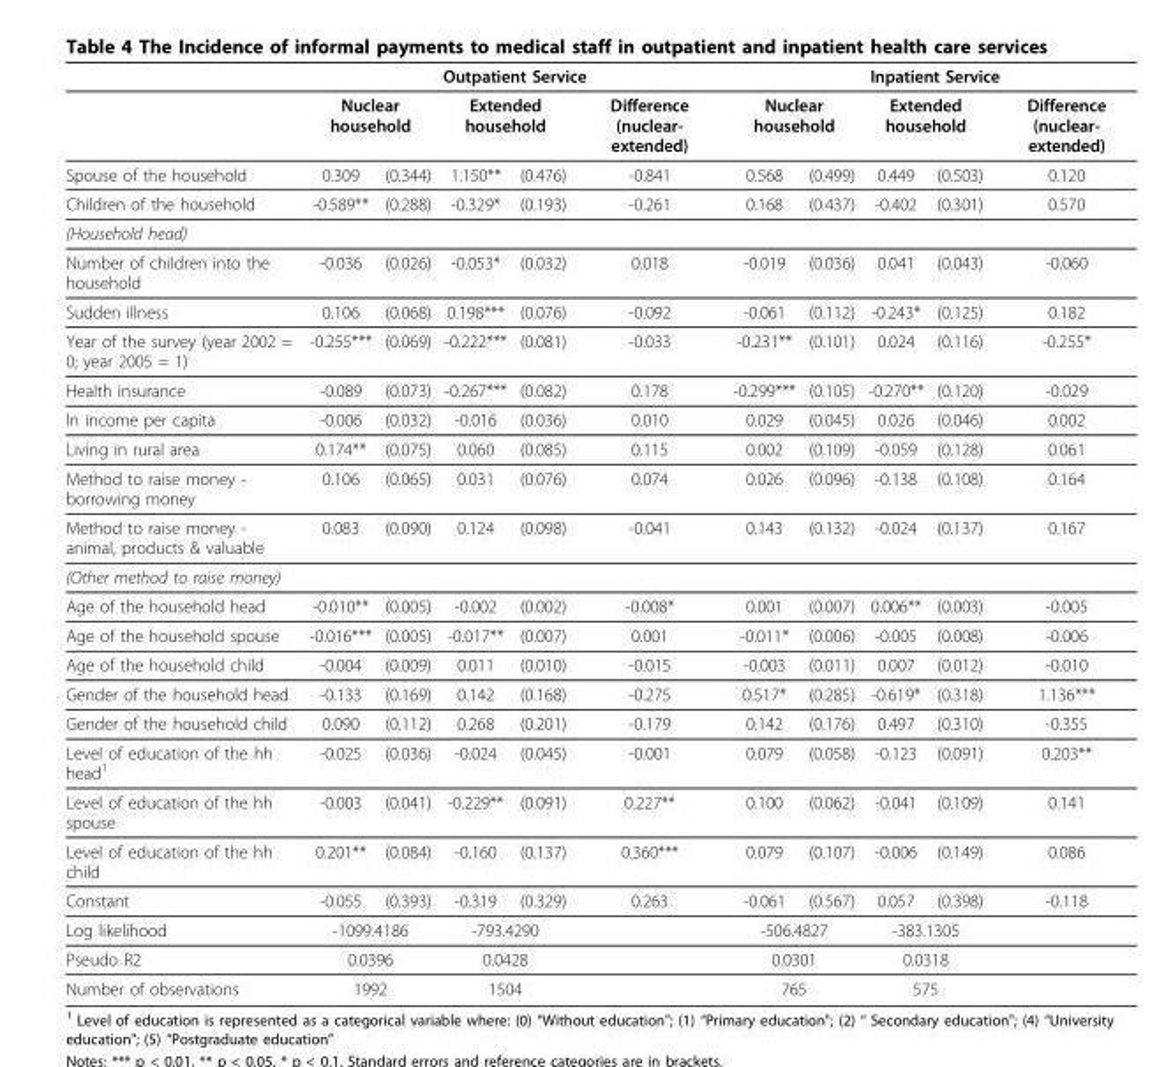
<table><thead><tr><td rowspan="3">Spouse of the household</td><td colspan="5">Outpatient Service</td><td colspan="5">Inpatient Service</td></tr><tr><td colspan="2">Nuclear household</td><td colspan="2">Extended household</td><td rowspan="2">Difference (nuclear- extended) -0.841</td><td colspan="2">Nuclear household</td><td colspan="2">Extended household</td><td rowspan="2">Difference (nuclear- extended) 0.120</td></tr><tr><td>0.309</td><td>(0.344)</td><td>1.150**</td><td>(0.476)</td><td>0.568</td><td>(0.499)</td><td>0.449</td><td>(0.503)</td></tr></thead><tbody><tr><td>Children of the household</td><td>-0.589**</td><td>(0.288)</td><td>-0.329*</td><td>(0.193)</td><td>-0.261</td><td>0.168</td><td>(0.437)</td><td>-0.402</td><td>(0.301)</td><td>0.570</td></tr><tr><td colspan="11">(Household head)</td></tr><tr><td>Number of children into the household</td><td>-0.036</td><td>(0.026)</td><td>-0.053*</td><td>(0.032)</td><td>0.018</td><td>-0.019</td><td>(0.036)</td><td>0.041</td><td>(0.043)</td><td>-0.060</td></tr><tr><td>Sudden illness</td><td>0.106</td><td>(0.068)</td><td>0.198***</td><td>(0.076)</td><td>-0.092</td><td>-0.061</td><td>(0.112)</td><td>-0.243*</td><td>(0.125)</td><td>0.182</td></tr><tr><td>Year of the survey (year 2002 = 0; year 2005 = 1)</td><td>-0.255***</td><td>(0.069)</td><td>-0.222***</td><td>(0.081)</td><td>-0.033</td><td>-0.231**</td><td>(0.101)</td><td>0.024</td><td>(0.116)</td><td>-0.255*</td></tr><tr><td>Health insurance</td><td>-0.089</td><td>(0.073)</td><td>-0.267***</td><td>(0.082)</td><td>0.178</td><td>-0.299***</td><td>(0.105)</td><td>-0.270**</td><td>(0.120)</td><td>-0.029</td></tr><tr><td>ln income per capita</td><td>-0.006</td><td>(0.032)</td><td>-0.016</td><td>(0.036)</td><td>0.010</td><td>0.029</td><td>(0.045)</td><td>0.026</td><td>(0.046)</td><td>0.002</td></tr><tr><td>Living in rural area</td><td>0.174**</td><td>(0.075)</td><td>0.060</td><td>(0.085)</td><td>0.115</td><td>0.002</td><td>(0.109)</td><td>-0.059</td><td>(0.128)</td><td>0.061</td></tr><tr><td>Method to raise money - borrowing money</td><td>0.106</td><td>(0.065)</td><td>0.031</td><td>(0.076)</td><td>0.074</td><td>0.026</td><td>(0.096)</td><td>-0.138</td><td>(0.108)</td><td>0.164</td></tr><tr><td>Method to raise money - animal, products &amp; valuable</td><td>0.083</td><td>(0.090)</td><td>0.124</td><td>(0.098)</td><td>-0.041</td><td>0.143</td><td>(0.132)</td><td>-0.024</td><td>(0.137)</td><td>0.167</td></tr><tr><td colspan="11">(Other method to raise money)</td></tr><tr><td>Age of the household head</td><td>-0.010**</td><td>(0.005)</td><td>-0.002</td><td>(0.002)</td><td>-0.008*</td><td>0.001</td><td>(0.007)</td><td>0.006**</td><td>(0.003)</td><td>-0.005</td></tr><tr><td>Age of the household spouse</td><td>-0.016***</td><td>(0.005)</td><td>-0.017**</td><td>(0.007)</td><td>0.001</td><td>-0.011*</td><td>(0.006)</td><td>-0.005</td><td>(0.008)</td><td>-0.006</td></tr><tr><td>Age of the household child</td><td>-0.004</td><td>(0.009)</td><td>0.011</td><td>(0.010)</td><td>-0.015</td><td>-0.003</td><td>(0.011)</td><td>0.007</td><td>(0.012)</td><td>-0.010</td></tr><tr><td>Gender of the household head</td><td>-0.133</td><td>(0.169)</td><td>0.142</td><td>(0.168)</td><td>-0.275</td><td>0.517*</td><td>(0.285)</td><td>-0.619*</td><td>(0.318)</td><td>1.136***</td></tr><tr><td>Gender of the household child</td><td>0.090</td><td>(0.112)</td><td>0.268</td><td>(0.201)</td><td>-0.179</td><td>0.142</td><td>(0.176)</td><td>0.497</td><td>(0.310)</td><td>-0.355</td></tr><tr><td>Level of education of the hh head<sup>1</sup></td><td>-0.025</td><td>(0.036)</td><td>-0.024</td><td>(0.045)</td><td>-0.001</td><td>0.079</td><td>(0.058)</td><td>-0.123</td><td>(0.091)</td><td>0.203**</td></tr><tr><td>Level of education of the hh spouse</td><td>-0.003</td><td>(0.041)</td><td>-0.229**</td><td>(0.091)</td><td>0.227**</td><td>0.100</td><td>(0.062)</td><td>-0.041</td><td>(0.109)</td><td>0.141</td></tr><tr><td>Level of education of the hh child</td><td>0.201**</td><td>(0.084)</td><td>-0.160</td><td>(0.137)</td><td>0.360***</td><td>0.079</td><td>(0.107)</td><td>-0.006</td><td>(0.149)</td><td>0.086</td></tr><tr><td>Constant</td><td>-0.055</td><td>(0.393)</td><td>-0.319</td><td>(0.329)</td><td>0.263</td><td>-0.061</td><td>(0.567)</td><td>0.057</td><td>(0.398)</td><td>-0.118</td></tr><tr><td>Log likelihood</td><td colspan="2">-1099.4186</td><td colspan="2">-793.4290</td><td></td><td colspan="2">-506.4827</td><td colspan="2">-383.1305</td><td></td></tr><tr><td>Pseudo R2</td><td colspan="2">0.0396</td><td colspan="2">0.0428</td><td></td><td colspan="2">0.0301</td><td colspan="2">0.0318</td><td></td></tr><tr><td>Number of observations</td><td colspan="2">1992</td><td colspan="2">1504</td><td></td><td colspan="2">765</td><td colspan="2">575</td><td></td></tr></tbody></table>